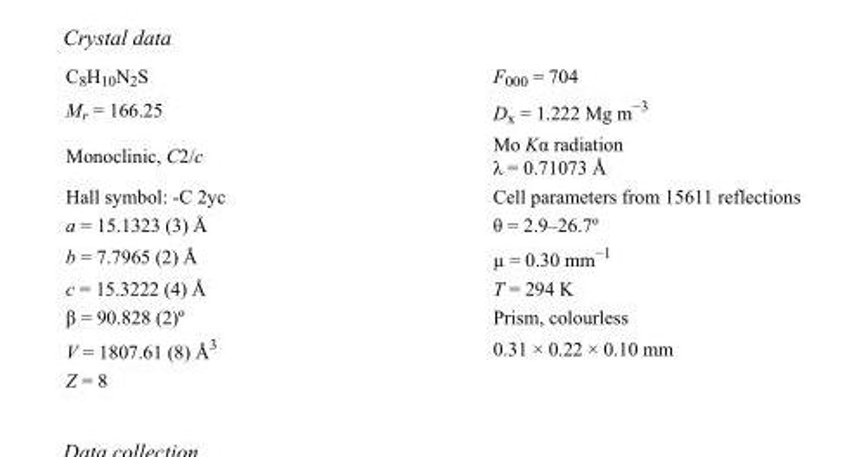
<table><tbody><tr><td>C<sub>8</sub>H<sub>10</sub>N<sub>2</sub>S</td><td>F<sub>000</sub> = 704</td></tr><tr><td>M<sub>r</sub> = 166.25</td><td>D<sub>x</sub> = 1.222 Mg m<sup>−3</sup></td></tr><tr><td>Monoclinic, C2/c</td><td>Mo Kα radiation λ = 0.71073 Å</td></tr><tr><td>Hall symbol: -C 2yc</td><td>Cell parameters from 15611 reflections</td></tr><tr><td>a = 15.1323 (3) Å</td><td>θ = 2.9–26.7º</td></tr><tr><td>b = 7.7965 (2) Å</td><td>µ = 0.30 mm<sup>−1</sup></td></tr><tr><td>c = 15.3222 (4) Å</td><td>T = 294 K</td></tr><tr><td>β = 90.828 (2)º</td><td>Prism, colourless</td></tr><tr><td>V = 1807.61 (8) Å<sup>3</sup></td><td>0.31 × 0.22 × 0.10 mm</td></tr><tr><td>Z = 8</td><td></td></tr></tbody></table>